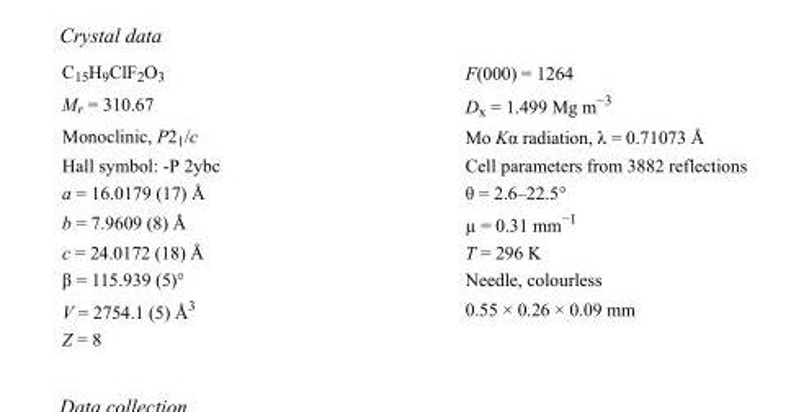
<table><tbody><tr><td>C<sub>15</sub>H<sub>9</sub>ClF<sub>2</sub>O<sub>3</sub></td><td>F(000) = 1264</td></tr><tr><td>M<sub>r</sub> = 310.67</td><td>D<sub>x</sub> = 1.499 Mg m<sup>−3</sup></td></tr><tr><td>Monoclinic, P2<sub>1</sub>/c</td><td>Mo Kα radiation, λ = 0.71073 Å</td></tr><tr><td>Hall symbol: -P 2ybc</td><td>Cell parameters from 3882 reflections</td></tr><tr><td>a = 16.0179 (17) Å</td><td>θ = 2.6–22.5°</td></tr><tr><td>b = 7.9609 (8) Å</td><td>µ = 0.31 mm<sup>−1</sup></td></tr><tr><td>c = 24.0172 (18) Å</td><td>T = 296 K</td></tr><tr><td>β = 115.939 (5)°</td><td>Needle, colourless</td></tr><tr><td>V = 2754.1 (5) Å<sup>3</sup></td><td>0.55 × 0.26 × 0.09 mm</td></tr><tr><td>Z = 8</td><td></td></tr></tbody></table>